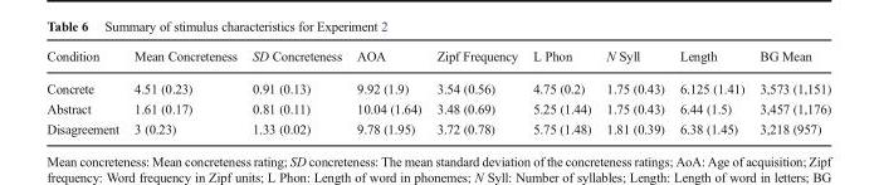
<table><thead><tr><td>Condition</td><td>Mean Concreteness</td><td>SD Concreteness</td><td>AOA</td><td>Zipf Frequency</td><td>L Phon</td><td>N Syll</td><td>Length</td><td>BG Mean</td></tr></thead><tbody><tr><td>Concrete</td><td>4.51 (0.23)</td><td>0.91 (0.13)</td><td>9.92 (1.9)</td><td>3.54 (0.56)</td><td>4.75 (0.2)</td><td>1.75 (0.43)</td><td>6.125 (1.41)</td><td>3,573 (1,151)</td></tr><tr><td>Abstract</td><td>1.61 (0.17)</td><td>0.81 (0.11)</td><td>10.04 (1.64)</td><td>3.48 (0.69)</td><td>5.25 (1.44)</td><td>1.75 (0.43)</td><td>6.44 (1.5)</td><td>3,457 (1,176)</td></tr><tr><td>Disagreement</td><td>3 (0.23)</td><td>1.33 (0.02)</td><td>9.78 (1.95)</td><td>3.72 (0.78)</td><td>5.75 (1.48)</td><td>1.81 (0.39)</td><td>6.38 (1.45)</td><td>3,218 (957)</td></tr></tbody></table>